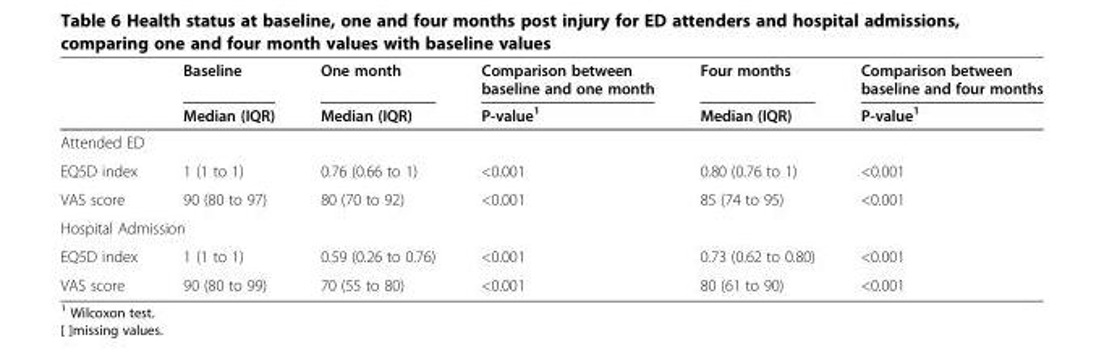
<table><thead><tr><td rowspan="2"></td><td rowspan="2">Baseline Median (IQR)</td><td rowspan="2">One month Median (IQR)</td><td rowspan="2">Comparison between baseline and one month P-value<sup>1</sup></td><td rowspan="2">Four months Median (IQR)</td><td rowspan="2">Comparison between baseline and four months P-value<sup>1</sup></td></tr><tr></tr></thead><tbody><tr><td colspan="6">Attended ED</td></tr><tr><td>EQ5D index</td><td>1 (1 to 1)</td><td>0.76 (0.66 to 1)</td><td>&lt;0.001</td><td>0.80 (0.76 to 1)</td><td>&lt;0.001</td></tr><tr><td>VAS score</td><td>90 (80 to 97)</td><td>80 (70 to 92)</td><td>&lt;0.001</td><td>85 (74 to 95)</td><td>&lt;0.001</td></tr><tr><td colspan="6">Hospital Admission</td></tr><tr><td>EQ5D index</td><td>1 (1 to 1)</td><td>0.59 (0.26 to 0.76)</td><td>&lt;0.001</td><td>0.73 (0.62 to 0.80)</td><td>&lt;0.001</td></tr><tr><td>VAS score</td><td>90 (80 to 99)</td><td>70 (55 to 80)</td><td>&lt;0.001</td><td>80 (61 to 90)</td><td>&lt;0.001</td></tr></tbody></table>